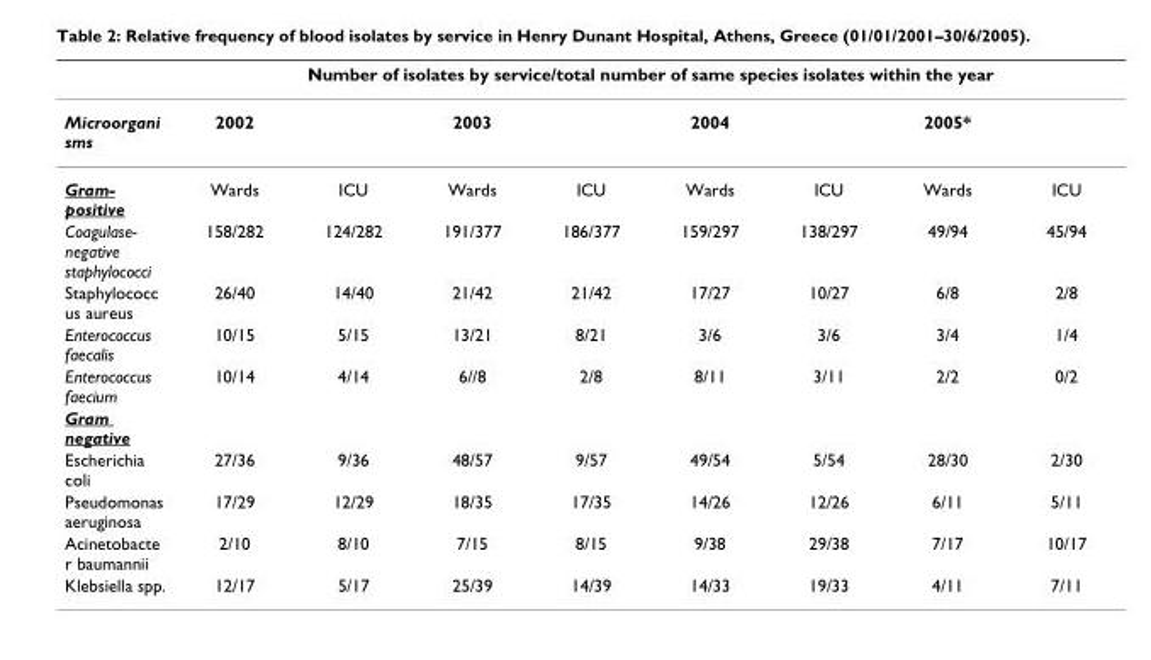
<table><thead><tr><td rowspan="2">Microorgani sms</td><td colspan="8">Number of isolates by service/total number of same species isolates within the year</td></tr><tr><td>2002</td><td></td><td>2003</td><td></td><td>2004</td><td></td><td>2005*</td><td></td></tr></thead><tbody><tr><td>Gram- positive</td><td>Wards</td><td>ICU</td><td>Wards</td><td>ICU</td><td>Wards</td><td>ICU</td><td>Wards</td><td>ICU</td></tr><tr><td>Coagulase- negative staphylococci</td><td>158/282</td><td>124/282</td><td>191/377</td><td>186/377</td><td>159/297</td><td>138/297</td><td>49/94</td><td>45/94</td></tr><tr><td>Staphylococc us aureus</td><td>26/40</td><td>14/40</td><td>21/42</td><td>21/42</td><td>17/27</td><td>10/27</td><td>6/8</td><td>2/8</td></tr><tr><td>Enterococcus faecalis</td><td>10/15</td><td>5/15</td><td>13/21</td><td>8/21</td><td>3/6</td><td>3/6</td><td>3/4</td><td>1/4</td></tr><tr><td>Enterococcus faecium</td><td>10/14</td><td>4/14</td><td>6//8</td><td>2/8</td><td>8/11</td><td>3/11</td><td>2/2</td><td>0/2</td></tr><tr><td colspan="9">Gram negative</td></tr><tr><td>Escherichia coli</td><td>27/36</td><td>9/36</td><td>48/57</td><td>9/57</td><td>49/54</td><td>5/54</td><td>28/30</td><td>2/30</td></tr><tr><td>Pseudomonas aeruginosa</td><td>17/29</td><td>12/29</td><td>18/35</td><td>17/35</td><td>14/26</td><td>12/26</td><td>6/11</td><td>5/11</td></tr><tr><td>Acinetobacte r baumannii</td><td>2/10</td><td>8/10</td><td>7/15</td><td>8/15</td><td>9/38</td><td>29/38</td><td>7/17</td><td>10/17</td></tr><tr><td>Klebsiella spp.</td><td>12/17</td><td>5/17</td><td>25/39</td><td>14/39</td><td>14/33</td><td>19/33</td><td>4/11</td><td>7/11</td></tr></tbody></table>